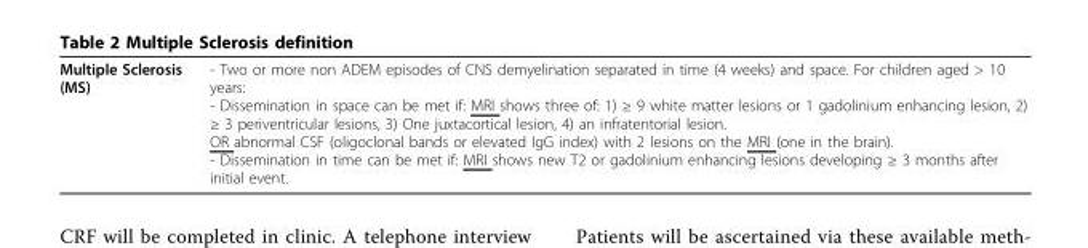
<table><tbody><tr><td>Multiple Sclerosis (MS)</td><td>- Two or more non ADEM episodes of CNS demyelination separated in time (4 weeks) and space. For children aged &gt; 10 years: - Dissemination in space can be met if: MRI shows three of: 1) ≥ 9 white matter lesions or 1 gadolinium enhancing lesion, 2) ≥ 3 periventricular lesions, 3) One juxtacortical lesion, 4) an infratentorial lesion. OR abnormal CSF (oligoclonal bands or elevated IgG index) with 2 lesions on the MRI (one in the brain). - Dissemination in time can be met if: MRI shows new T2 or gadolinium enhancing lesions developing ≥ 3 months after initial event.</td></tr></tbody></table>